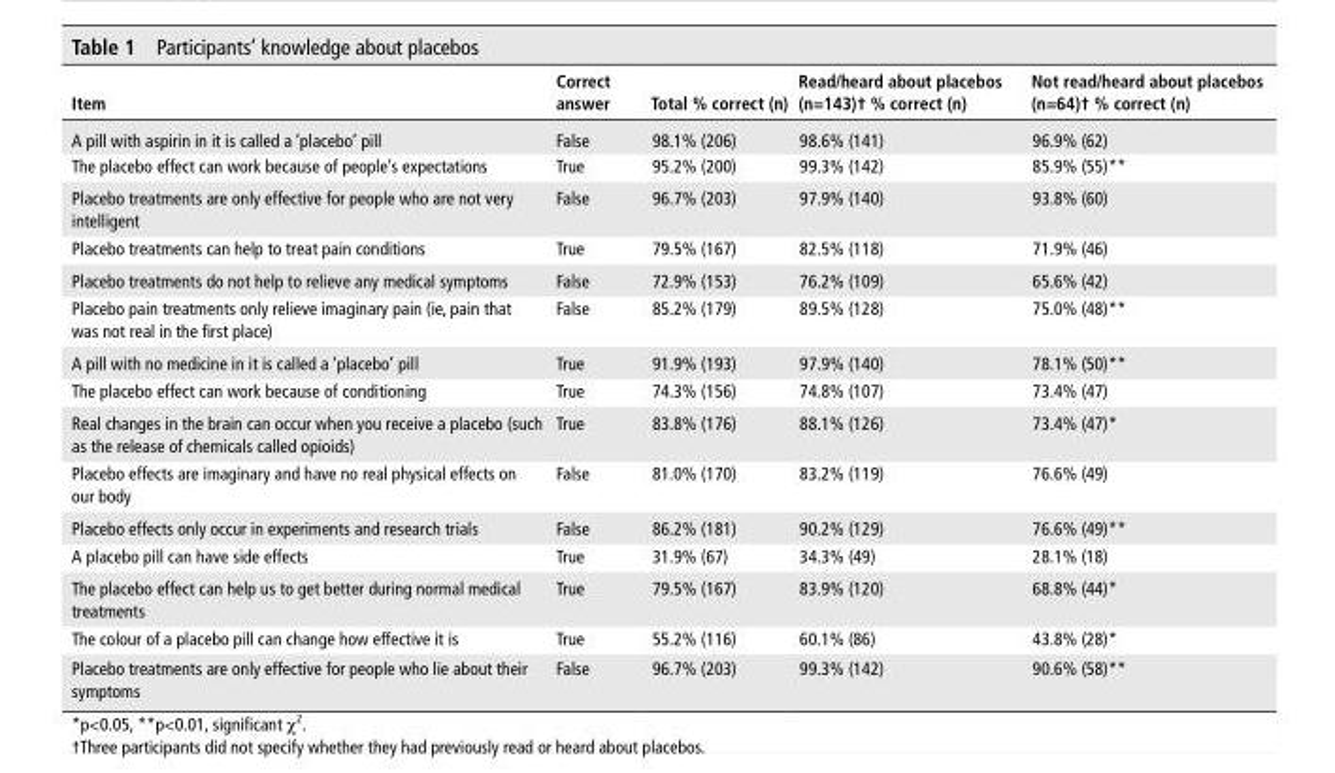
<table><thead><tr><td>Item</td><td>correct answer</td><td>total % correct (n)</td><td>read/heard about placebos (n=143)† % correct (n)</td><td>not read/heard about placebos (n=64)† % correct (n)</td></tr></thead><tbody><tr><td>A pill with aspirin in it is called a ‘placebo’ pill</td><td>False</td><td>98.1% (206)</td><td>98.6% (141)</td><td>96.9% (62)</td></tr><tr><td>The placebo effect can work because of people’s expectations</td><td>True</td><td>95.2% (200)</td><td>99.3% (142)</td><td>85.9% (55)**</td></tr><tr><td>Placebo treatments are only effective for people who are not very intelligent</td><td>False</td><td>96.7% (203)</td><td>97.9% (140)</td><td>93.8% (60)</td></tr><tr><td>Placebo treatments can help to treat pain conditions</td><td>True</td><td>79.5% (167)</td><td>82.5% (118)</td><td>71.9% (46)</td></tr><tr><td>Placebo treatments do not help to relieve any medical symptoms</td><td>False</td><td>72.9% (153)</td><td>76.2% (109)</td><td>65.6% (42)</td></tr><tr><td>Placebo pain treatments only relieve imaginary pain (ie, pain that was not real in the first place)</td><td>False</td><td>85.2% (179)</td><td>89.5% (128)</td><td>75.0% (48)**</td></tr><tr><td>A pill with no medicine in it is called a ‘placebo’ pill</td><td>True</td><td>91.9% (193)</td><td>97.9% (140)</td><td>78.1% (50)**</td></tr><tr><td>The placebo effect can work because of conditioning</td><td>True</td><td>74.3% (156)</td><td>74.8% (107)</td><td>73.4% (47)</td></tr><tr><td>Real changes in the brain can occur when you receive a placebo (such as the release of chemicals called opioids)</td><td>True</td><td>83.8% (176)</td><td>88.1% (126)</td><td>73.4% (47)*</td></tr><tr><td>Placebo effects are imaginary and have no real physical effects on our body</td><td>False</td><td>81.0% (170)</td><td>83.2% (119)</td><td>76.6% (49)</td></tr><tr><td>Placebo effects only occur in experiments and research trials</td><td>False</td><td>86.2% (181)</td><td>90.2% (129)</td><td>76.6% (49)**</td></tr><tr><td>A placebo pill can have side effects</td><td>True</td><td>31.9% (67)</td><td>34.3% (49)</td><td>28.1% (18)</td></tr><tr><td>The placebo effect can help us to get better during normal medical treatments</td><td>True</td><td>79.5% (167)</td><td>83.9% (120)</td><td>68.8% (44)*</td></tr><tr><td>The colour of a placebo pill can change how effective it is</td><td>True</td><td>55.2% (116)</td><td>60.1% (86)</td><td>43.8% (28)*</td></tr><tr><td>Placebo treatments are only effective for people who lie about their symptoms</td><td>False</td><td>96.7% (203)</td><td>99.3% (142)</td><td>90.6% (58)**</td></tr></tbody></table>